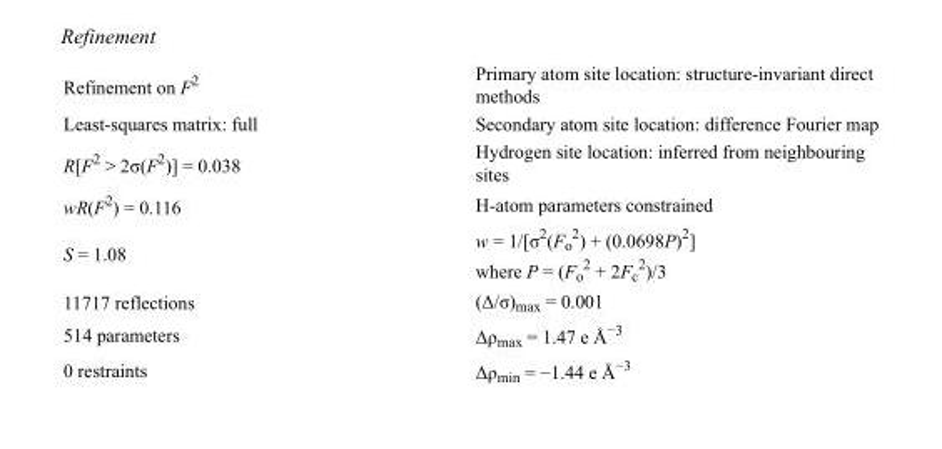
<table><tbody><tr><td>Refinement on F<sup>2</sup></td><td>Primary atom site location: structure-invariant direct methods</td></tr><tr><td>Least-squares matrix: full</td><td>Secondary atom site location: difference Fourier map</td></tr><tr><td>R[F<sup>2</sup> &gt; 2σ(F<sup>2</sup>)] = 0.038</td><td>Hydrogen site location: inferred from neighbouring sites</td></tr><tr><td>wR(F<sup>2</sup>) = 0.116</td><td>H-atom parameters constrained</td></tr><tr><td>S = 1.08</td><td>w = 1/[σ<sup>2</sup>(F<sub>o</sub> <sup>2</sup>) + (0.0698P)<sup>2</sup>] where P = (F<sub>o</sub> <sup>2</sup> + 2F<sub>c</sub> <sup>2</sup>)/3</td></tr><tr><td>11717 reflections</td><td>(Δ/σ)<sub>max</sub> = 0.001</td></tr><tr><td>514 parameters</td><td>Δρ<sub>max</sub> = 1.47 e Å<sup>−3</sup></td></tr><tr><td>0 restraints</td><td>Δρ<sub>min</sub> = −1.44 e Å<sup>−3</sup></td></tr></tbody></table>